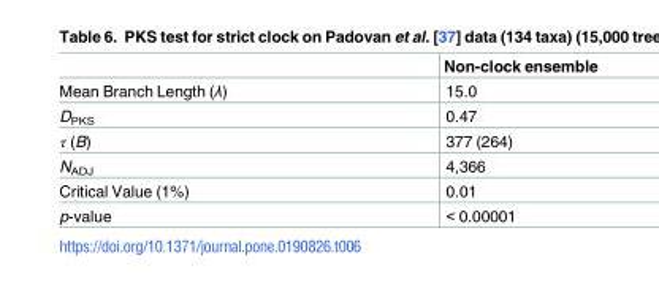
<table><thead><tr><td></td><td>Non-clock ensemble</td></tr></thead><tbody><tr><td>Mean Branch Length (λ)</td><td>15.0</td></tr><tr><td>D<sub>PKS</sub></td><td>0.47</td></tr><tr><td>τ (B)</td><td>377 (264)</td></tr><tr><td>N<sub>ADJ</sub></td><td>4,366</td></tr><tr><td>Critical Value (1%)</td><td>0.01</td></tr><tr><td>p-value</td><td>&lt; 0.00001</td></tr></tbody></table>